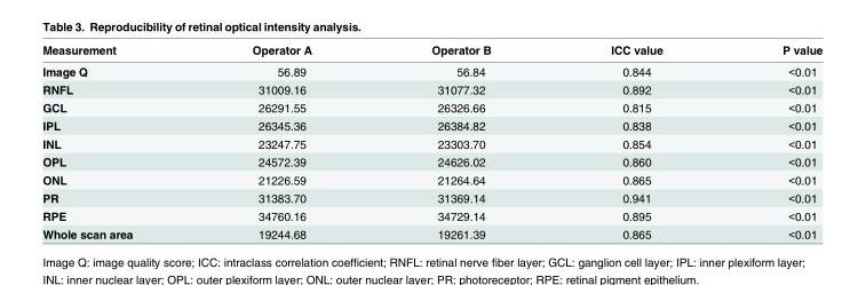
<table><thead><tr><td>Measurement</td><td>Operator A</td><td>Operator B</td><td>ICC value</td><td>P value</td></tr></thead><tbody><tr><td>Image Q</td><td>56.89</td><td>56.84</td><td>0.844</td><td>&lt;0.01</td></tr><tr><td>RNFL</td><td>31009.16</td><td>31077.32</td><td>0.892</td><td>&lt;0.01</td></tr><tr><td>GCL</td><td>26291.55</td><td>26326.66</td><td>0.815</td><td>&lt;0.01</td></tr><tr><td>IPL</td><td>26345.36</td><td>26384.82</td><td>0.838</td><td>&lt;0.01</td></tr><tr><td>INL</td><td>23247.75</td><td>23303.70</td><td>0.854</td><td>&lt;0.01</td></tr><tr><td>OPL</td><td>24572.39</td><td>24626.02</td><td>0.860</td><td>&lt;0.01</td></tr><tr><td>ONL</td><td>21226.59</td><td>21264.64</td><td>0.865</td><td>&lt;0.01</td></tr><tr><td>PR</td><td>31383.70</td><td>31369.14</td><td>0.941</td><td>&lt;0.01</td></tr><tr><td>RPE</td><td>34760.16</td><td>34729.14</td><td>0.895</td><td>&lt;0.01</td></tr><tr><td>Whole scan area</td><td>19244.68</td><td>19261.39</td><td>0.865</td><td>&lt;0.01</td></tr></tbody></table>